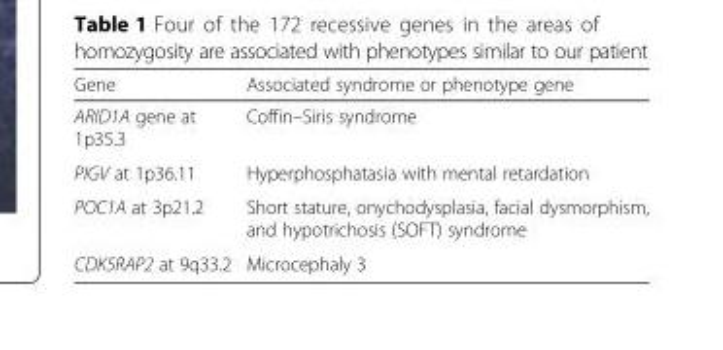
<table><thead><tr><td>Gene</td><td>Associated syndrome or phenotype gene</td></tr></thead><tbody><tr><td>ARID1A gene at 1p35.3</td><td>Coffin–Siris syndrome</td></tr><tr><td>PIGV at 1p36.11</td><td>Hyperphosphatasia with mental retardation</td></tr><tr><td>POC1A at 3p21.2</td><td>Short stature, onychodysplasia, facial dysmorphism, and hypotrichosis (SOFT) syndrome</td></tr><tr><td>CDK5RAP2 at 9q33.2</td><td>Microcephaly 3</td></tr></tbody></table>